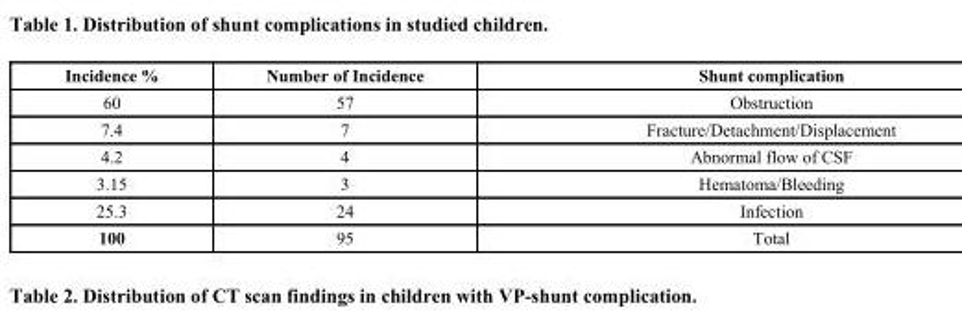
<table><thead><tr><td>Incidence %</td><td>Number of Incidence</td><td>Shunt complication</td></tr></thead><tbody><tr><td>60</td><td>57</td><td>Obstruction</td></tr><tr><td>7.4</td><td>7</td><td>Fracture/Detachment/Displacement</td></tr><tr><td>4.2</td><td>4</td><td>Abnormal flow of CSF</td></tr><tr><td>3.15</td><td>3</td><td>Hematoma/Bleeding</td></tr><tr><td>25.3</td><td>24</td><td>Infection</td></tr><tr><td>100</td><td>95</td><td>Total</td></tr></tbody></table>